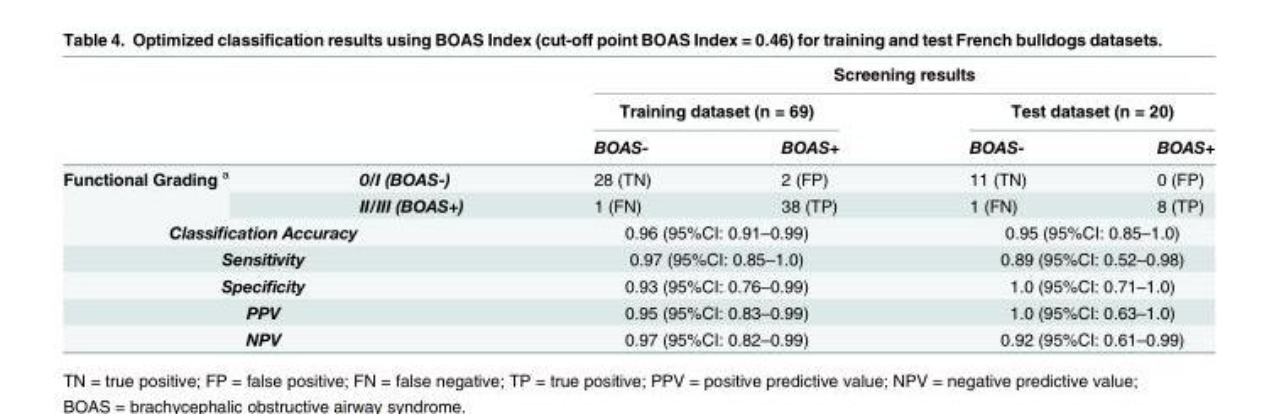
<table><thead><tr><td rowspan="3"></td><td rowspan="3"></td><td colspan="4">Screening results</td></tr><tr><td colspan="2">Training dataset (n = 69)</td><td colspan="2">Test dataset (n = 20)</td></tr><tr><td>BOAS-</td><td>BOAS+</td><td>BOAS-</td><td>BOAS+</td></tr></thead><tbody><tr><td rowspan="2">Functional Grading <sup>a</sup></td><td>0/I (BOAS-)</td><td>28 (TN)</td><td>2 (FP)</td><td>11 (TN)</td><td>0 (FP)</td></tr><tr><td>II/III (BOAS+)</td><td>1 (FN)</td><td>38 (TP)</td><td>1 (FN)</td><td>8 (TP)</td></tr><tr><td colspan="2">Classification Accuracy</td><td colspan="2">0.96 (95%CI: 0.91–0.99)</td><td colspan="2">0.95 (95%CI: 0.85–1.0)</td></tr><tr><td colspan="2">Sensitivity</td><td colspan="2">0.97 (95%CI: 0.85–1.0)</td><td colspan="2">0.89 (95%CI: 0.52–0.98)</td></tr><tr><td colspan="2">Specificity</td><td colspan="2">0.93 (95%CI: 0.76–0.99)</td><td colspan="2">1.0 (95%CI: 0.71–1.0)</td></tr><tr><td colspan="2">PPV</td><td colspan="2">0.95 (95%CI: 0.83–0.99)</td><td colspan="2">1.0 (95%CI: 0.63–1.0)</td></tr><tr><td colspan="2">NPV</td><td colspan="2">0.97 (95%CI: 0.82–0.99)</td><td colspan="2">0.92 (95%CI: 0.61–0.99)</td></tr></tbody></table>